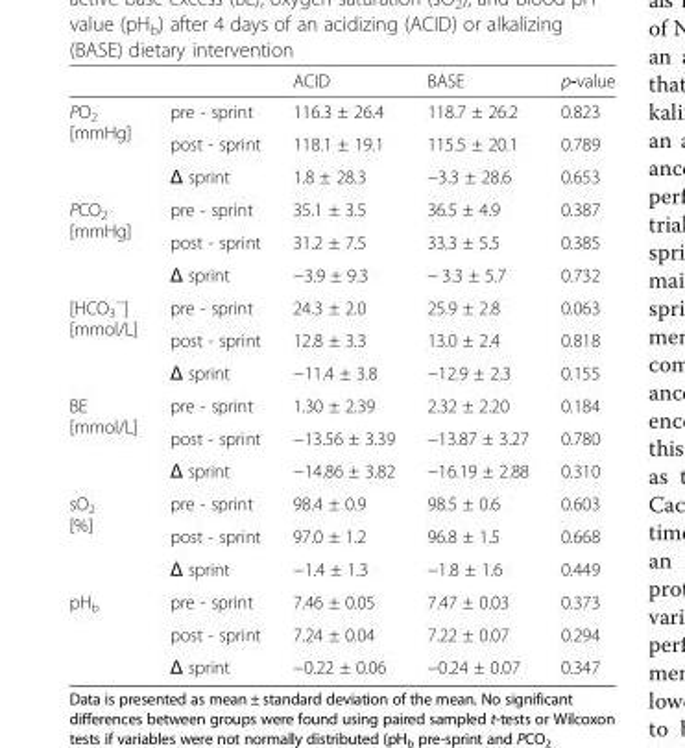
<table><thead><tr><td></td><td></td><td>ACID</td><td>BASE</td><td>p-value</td></tr></thead><tbody><tr><td rowspan="3">PO<sub>2</sub> [mmHg]</td><td>pre - sprint</td><td>116.3 ± 26.4</td><td>118.7 ± 26.2</td><td>0.823</td></tr><tr><td>post - sprint</td><td>118.1 ± 19.1</td><td>115.5 ± 20.1</td><td>0.789</td></tr><tr><td>Δ sprint</td><td>1.8 ± 28.3</td><td>−3.3 ± 28.6</td><td>0.653</td></tr><tr><td rowspan="3">PCO<sub>2</sub> [mmHg]</td><td>pre - sprint</td><td>35.1 ± 3.5</td><td>36.5 ± 4.9</td><td>0.387</td></tr><tr><td>post - sprint</td><td>31.2 ± 7.5</td><td>33.3 ± 5.5</td><td>0.385</td></tr><tr><td>Δ sprint</td><td>−3.9 ± 9.3</td><td>− 3.3 ± 5.7</td><td>0.732</td></tr><tr><td rowspan="3">[HCO<sub>3</sub> <sup>−</sup>] [mmol/L]</td><td>pre - sprint</td><td>24.3 ± 2.0</td><td>25.9 ± 2.8</td><td>0.063</td></tr><tr><td>post - sprint</td><td>12.8 ± 3.3</td><td>13.0 ± 2.4</td><td>0.818</td></tr><tr><td>Δ sprint</td><td>−11.4 ± 3.8</td><td>−12.9 ± 2.3</td><td>0.155</td></tr><tr><td rowspan="3">BE [mmol/L]</td><td>pre - sprint</td><td>1.30 ± 2.39</td><td>2.32 ± 2.20</td><td>0.184</td></tr><tr><td>post - sprint</td><td>−13.56 ± 3.39</td><td>−13.87 ± 3.27</td><td>0.780</td></tr><tr><td>Δ sprint</td><td>−14.86 ± 3.82</td><td>−16.19 ± 2.88</td><td>0.310</td></tr><tr><td rowspan="3">sO<sub>2</sub> [%]</td><td>pre - sprint</td><td>98.4 ± 0.9</td><td>98.5 ± 0.6</td><td>0.603</td></tr><tr><td>post - sprint</td><td>97.0 ± 1.2</td><td>96.8 ± 1.5</td><td>0.668</td></tr><tr><td>Δ sprint</td><td>−1.4 ± 1.3</td><td>−1.8 ± 1.6</td><td>0.449</td></tr><tr><td rowspan="3">pH<sub>b</sub></td><td>pre - sprint</td><td>7.46 ± 0.05</td><td>7.47 ± 0.03</td><td>0.373</td></tr><tr><td>post - sprint</td><td>7.24 ± 0.04</td><td>7.22 ± 0.07</td><td>0.294</td></tr><tr><td>Δ sprint</td><td>−0.22 ± 0.06</td><td>−0.24 ± 0.07</td><td>0.347</td></tr></tbody></table>